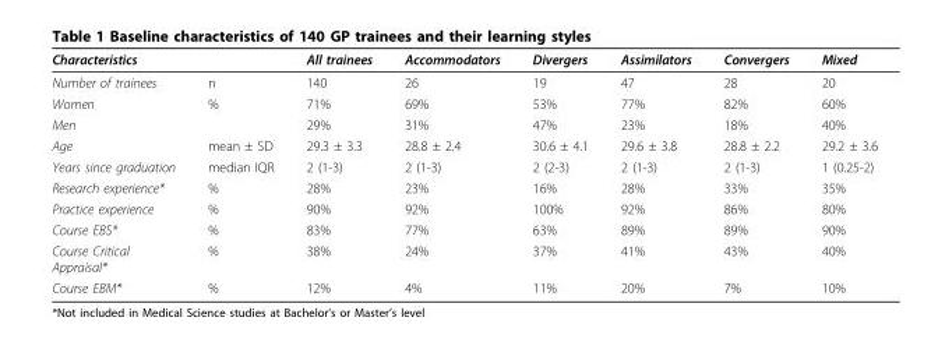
<table><thead><tr><td>Characteristics</td><td></td><td>All trainees</td><td>Accommodators</td><td>Divergers</td><td>Assimilators</td><td>Convergers</td><td>Mixed</td></tr></thead><tbody><tr><td>Number of trainees</td><td>n</td><td>140</td><td>26</td><td>19</td><td>47</td><td>28</td><td>20</td></tr><tr><td>Women</td><td>%</td><td>71%</td><td>69%</td><td>53%</td><td>77%</td><td>82%</td><td>60%</td></tr><tr><td>Men</td><td></td><td>29%</td><td>31%</td><td>47%</td><td>23%</td><td>18%</td><td>40%</td></tr><tr><td>Age</td><td>mean ± SD</td><td>29.3 ± 3.3</td><td>28.8 ± 2.4</td><td>30.6 ± 4.1</td><td>29.6 ± 3.8</td><td>28.8 ± 2.2</td><td>29.2 ± 3.6</td></tr><tr><td>Years since graduation</td><td>median IQR</td><td>2 (1-3)</td><td>2 (1-3)</td><td>2 (2-3)</td><td>2 (1-3)</td><td>2 (1-3)</td><td>1 (0.25-2)</td></tr><tr><td>Research experience*</td><td>%</td><td>28%</td><td>23%</td><td>16%</td><td>28%</td><td>33%</td><td>35%</td></tr><tr><td>Practice experience</td><td>%</td><td>90%</td><td>92%</td><td>100%</td><td>92%</td><td>86%</td><td>80%</td></tr><tr><td>Course EBS*</td><td>%</td><td>83%</td><td>77%</td><td>63%</td><td>89%</td><td>89%</td><td>90%</td></tr><tr><td>Course Critical Appraisal*</td><td>%</td><td>38%</td><td>24%</td><td>37%</td><td>41%</td><td>43%</td><td>40%</td></tr><tr><td>Course EBM*</td><td>%</td><td>12%</td><td>4%</td><td>11%</td><td>20%</td><td>7%</td><td>10%</td></tr></tbody></table>